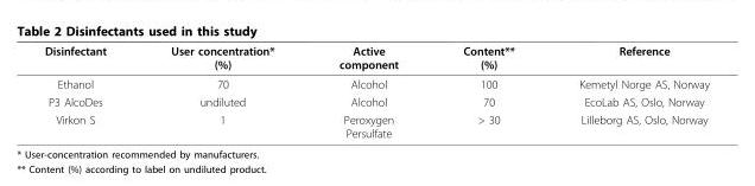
<table><thead><tr><td>Disinfectant</td><td>User concentration* (%)</td><td>Active component</td><td>Content** (%)</td><td>Reference</td></tr></thead><tbody><tr><td>Ethanol</td><td>70</td><td>Alcohol</td><td>100</td><td>Kemetyl Norge AS, Norway</td></tr><tr><td>P3 AlcoDes</td><td>undiluted</td><td>Alcohol</td><td>70</td><td>EcoLab AS, Oslo, Norway</td></tr><tr><td>Virkon S</td><td>1</td><td>Peroxygen Persulfate</td><td>&gt; 30</td><td>Lilleborg AS, Oslo, Norway</td></tr></tbody></table>